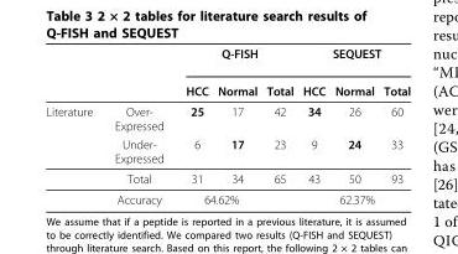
<table><thead><tr><td rowspan="2"></td><td rowspan="2"></td><td colspan="3">Q-FISH</td><td colspan="3">SEQUEST</td></tr><tr><td>HCC</td><td>Normal</td><td>Total</td><td>HCC</td><td>Normal</td><td>Total</td></tr></thead><tbody><tr><td rowspan="4">Literature</td><td>Over- Expressed</td><td>25</td><td>17</td><td>42</td><td>34</td><td>26</td><td>60</td></tr><tr><td>Under- Expressed</td><td>6</td><td>17</td><td>23</td><td>9</td><td>24</td><td>33</td></tr><tr><td>Total</td><td>31</td><td>34</td><td>65</td><td>43</td><td>50</td><td>93</td></tr><tr><td>Accuracy</td><td colspan="2">64.62%</td><td></td><td colspan="2">62.37%</td><td></td></tr></tbody></table>